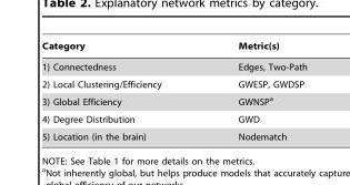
<table><thead><tr><td>Category</td><td>Metric(s)</td></tr></thead><tbody><tr><td>1) Connectedness</td><td>Edges, Two-Path</td></tr><tr><td>2) Local Clustering/Efficiency</td><td>GWESP, GWDSP</td></tr><tr><td>3) Global Efficiency</td><td>GWNSP<sup>a</sup></td></tr><tr><td>4) Degree Distribution</td><td>GWD</td></tr><tr><td>5) Location (in the brain)</td><td>Nodematch</td></tr></tbody></table>